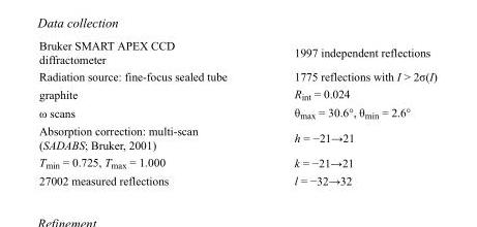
<table><tbody><tr><td>Bruker SMART APEX CCD diffractometer</td><td>1997 independent reflections</td></tr><tr><td>Radiation source: fine-focus sealed tube</td><td>1775 reflections with I &gt; 2σ(I)</td></tr><tr><td>graphite</td><td>R<sub>int</sub> = 0.024</td></tr><tr><td>ω scans</td><td>θ<sub>max</sub> = 30.6°, θ<sub>min</sub> = 2.6°</td></tr><tr><td>Absorption correction: multi-scan (SADABS; Bruker, 2001)</td><td>h = −21→21</td></tr><tr><td>T<sub>min</sub> = 0.725, T<sub>max</sub> = 1.000</td><td>k = −21→21</td></tr><tr><td>27002 measured reflections</td><td>l = −32→32</td></tr></tbody></table>